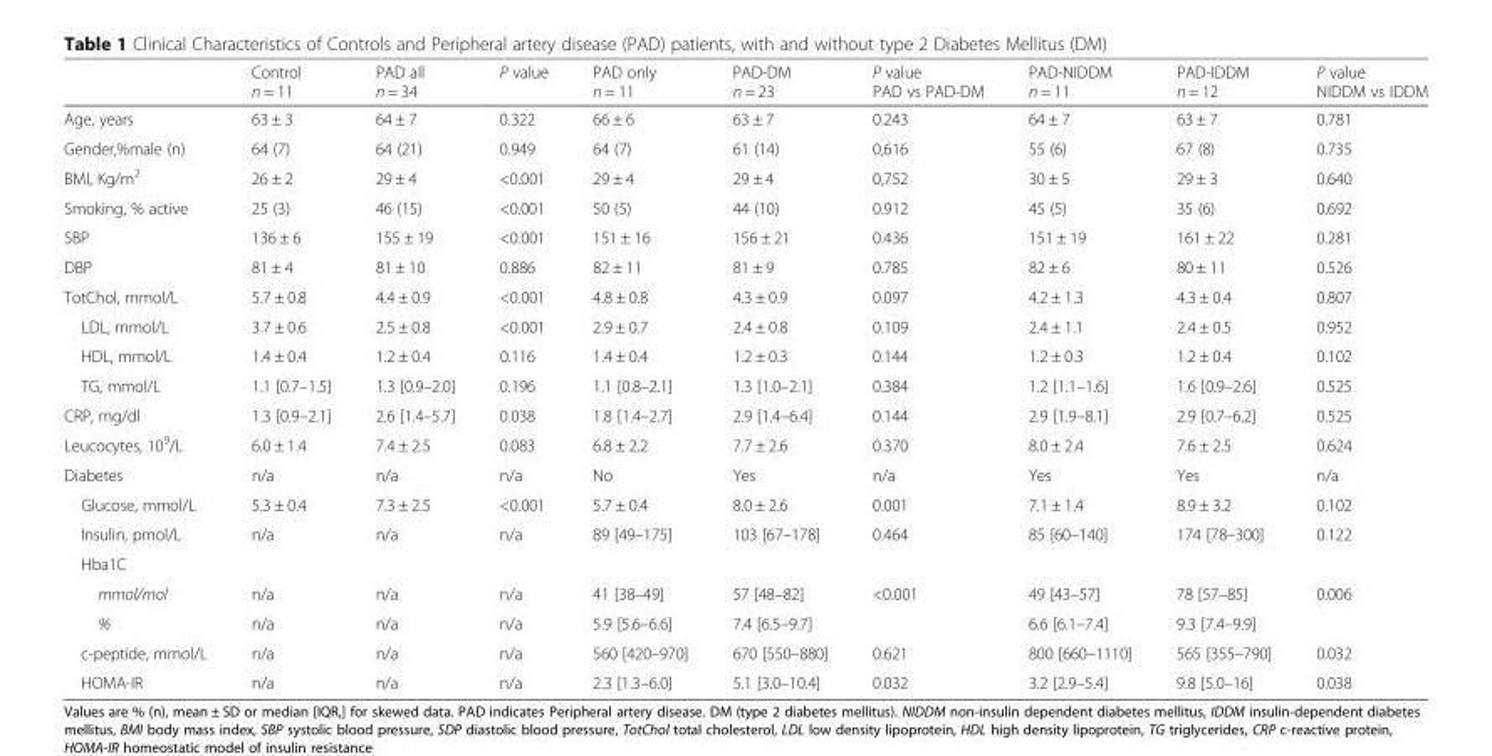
<table><thead><tr><td></td><td>Control n = 11</td><td>PAD all n = 34</td><td>P value</td><td>PAD only n = 11</td><td>PAD-DM n = 23</td><td>P value PAD vs PAD-DM</td><td>PAD-NIDDM n = 11</td><td>PAD-IDDM n = 12</td><td>P value NIDDM vs IDDM</td></tr></thead><tbody><tr><td>Age, years</td><td>63 ± 3</td><td>64 ± 7</td><td>0.322</td><td>66 ± 6</td><td>63 ± 7</td><td>0.243</td><td>64 ± 7</td><td>63 ± 7</td><td>0.781</td></tr><tr><td>Gender,%male (n)</td><td>64 (7)</td><td>64 (21)</td><td>0.949</td><td>64 (7)</td><td>61 (14)</td><td>0,616</td><td>55 (6)</td><td>67 (8)</td><td>0.735</td></tr><tr><td>BMI, Kg/m<sup>2</sup></td><td>26 ± 2</td><td>29 ± 4</td><td>&lt;0.001</td><td>29 ± 4</td><td>29 ± 4</td><td>0,752</td><td>30 ± 5</td><td>29 ± 3</td><td>0.640</td></tr><tr><td>Smoking, % active</td><td>25 (3)</td><td>46 (15)</td><td>&lt;0.001</td><td>50 (5)</td><td>44 (10)</td><td>0.912</td><td>45 (5)</td><td>35 (6)</td><td>0.692</td></tr><tr><td>SBP</td><td>136 ± 6</td><td>155 ± 19</td><td>&lt;0.001</td><td>151 ± 16</td><td>156 ± 21</td><td>0.436</td><td>151 ± 19</td><td>161 ± 22</td><td>0.281</td></tr><tr><td>DBP</td><td>81 ± 4</td><td>81 ± 10</td><td>0.886</td><td>82 ± 11</td><td>81 ± 9</td><td>0.785</td><td>82 ± 6</td><td>80 ± 11</td><td>0.526</td></tr><tr><td>TotChol, mmol/L</td><td>5.7 ± 0.8</td><td>4.4 ± 0.9</td><td>&lt;0.001</td><td>4.8 ± 0.8</td><td>4.3 ± 0.9</td><td>0.097</td><td>4.2 ± 1.3</td><td>4.3 ± 0.4</td><td>0.807</td></tr><tr><td>LDL, mmol/L</td><td>3.7 ± 0.6</td><td>2.5 ± 0.8</td><td>&lt;0.001</td><td>2.9 ± 0.7</td><td>2.4 ± 0.8</td><td>0.109</td><td>2.4 ± 1.1</td><td>2.4 ± 0.5</td><td>0.952</td></tr><tr><td>HDL, mmol/L</td><td>1.4 ± 0.4</td><td>1.2 ± 0.4</td><td>0.116</td><td>1.4 ± 0.4</td><td>1.2 ± 0.3</td><td>0.144</td><td>1.2 ± 0.3</td><td>1.2 ± 0.4</td><td>0.102</td></tr><tr><td>TG, mmol/L</td><td>1.1 [0.7–1.5]</td><td>1.3 [0.9–2.0]</td><td>0.196</td><td>1.1 [0.8–2.1]</td><td>1.3 [1.0–2.1]</td><td>0.384</td><td>1.2 [1.1–1.6]</td><td>1.6 [0.9–2.6]</td><td>0.525</td></tr><tr><td>CRP, mg/dl</td><td>1.3 [0.9–2.1]</td><td>2.6 [1.4–5.7]</td><td>0.038</td><td>1.8 [1.4–2.7]</td><td>2.9 [1.4–6.4]</td><td>0.144</td><td>2.9 [1.9–8.1]</td><td>2.9 [0.7–6.2]</td><td>0.525</td></tr><tr><td>Leucocytes, 10<sup>9</sup>/L</td><td>6.0 ± 1.4</td><td>7.4 ± 2.5</td><td>0.083</td><td>6.8 ± 2.2</td><td>7.7 ± 2.6</td><td>0.370</td><td>8.0 ± 2.4</td><td>7.6 ± 2.5</td><td>0.624</td></tr><tr><td>Diabetes</td><td>n/a</td><td>n/a</td><td>n/a</td><td>No</td><td>Yes</td><td>n/a</td><td>Yes</td><td>Yes</td><td>n/a</td></tr><tr><td>Glucose, mmol/L</td><td>5.3 ± 0.4</td><td>7.3 ± 2.5</td><td>&lt;0.001</td><td>5.7 ± 0.4</td><td>8.0 ± 2.6</td><td>0.001</td><td>7.1 ± 1.4</td><td>8.9 ± 3.2</td><td>0.102</td></tr><tr><td>Insulin, pmol/L</td><td>n/a</td><td>n/a</td><td>n/a</td><td>89 [49–175]</td><td>103 [67–178]</td><td>0.464</td><td>85 [60–140]</td><td>174 [78–300]</td><td>0.122</td></tr><tr><td colspan="10">Hba1C</td></tr><tr><td>mmol/mol</td><td>n/a</td><td>n/a</td><td>n/a</td><td>41 [38–49]</td><td>57 [48–82]</td><td>&lt;0.001</td><td>49 [43–57]</td><td>78 [57–85]</td><td>0.006</td></tr><tr><td>%</td><td>n/a</td><td>n/a</td><td>n/a</td><td>5.9 [5.6–6.6]</td><td>7.4 [6.5–9.7]</td><td></td><td>6.6 [6.1–7.4]</td><td>9.3 [7.4–9.9]</td><td></td></tr><tr><td>c-peptide, mmol/L</td><td>n/a</td><td>n/a</td><td>n/a</td><td>560 [420–970]</td><td>670 [550–880]</td><td>0.621</td><td>800 [660–1110]</td><td>565 [355–790]</td><td>0.032</td></tr><tr><td>HOMA-IR</td><td>n/a</td><td>n/a</td><td>n/a</td><td>2.3 [1.3–6.0]</td><td>5.1 [3.0–10.4]</td><td>0.032</td><td>3.2 [2.9–5.4]</td><td>9.8 [5.0–16]</td><td>0.038</td></tr></tbody></table>